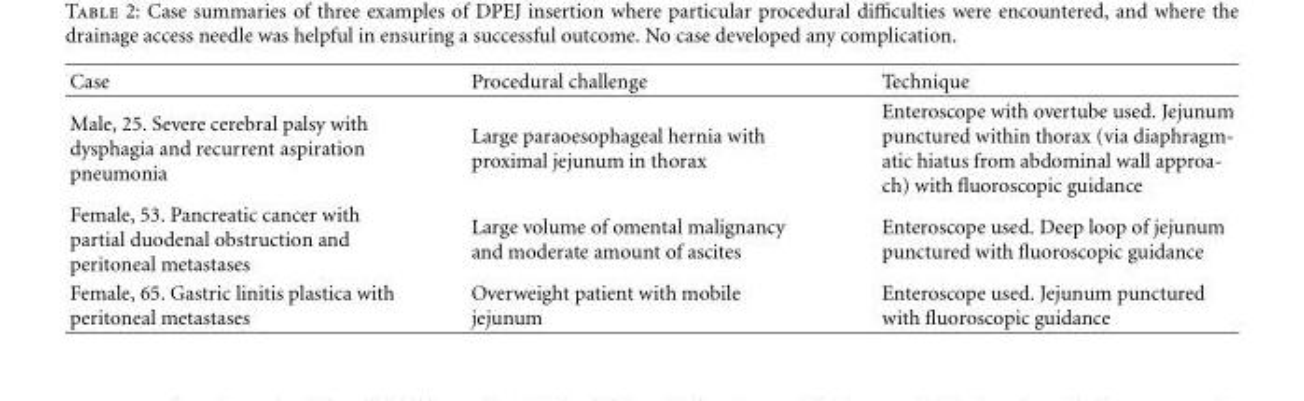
<table><thead><tr><td>Case</td><td>Procedural challenge</td><td>Technique</td></tr></thead><tbody><tr><td>Male, 25. Severe cerebral palsy with dysphagia and recurrent aspiration pneumonia</td><td>Large paraoesophageal hernia with proximal jejunum in thorax</td><td>Enteroscope with overtube used. Jejunum punctured within thorax (via diaphragm- atic hiatus from abdominal wall approa- ch) with fluoroscopic guidance</td></tr><tr><td>Female, 53. Pancreatic cancer with partial duodenal obstruction and peritoneal metastases</td><td>Large volume of omental malignancy and moderate amount of ascites</td><td>Enteroscope used. Deep loop of jejunum punctured with fluoroscopic guidance</td></tr><tr><td>Female, 65. Gastric linitis plastica with peritoneal metastases</td><td>Overweight patient with mobile jejunum</td><td>Enteroscope used. Jejunum punctured with fluoroscopic guidance</td></tr></tbody></table>